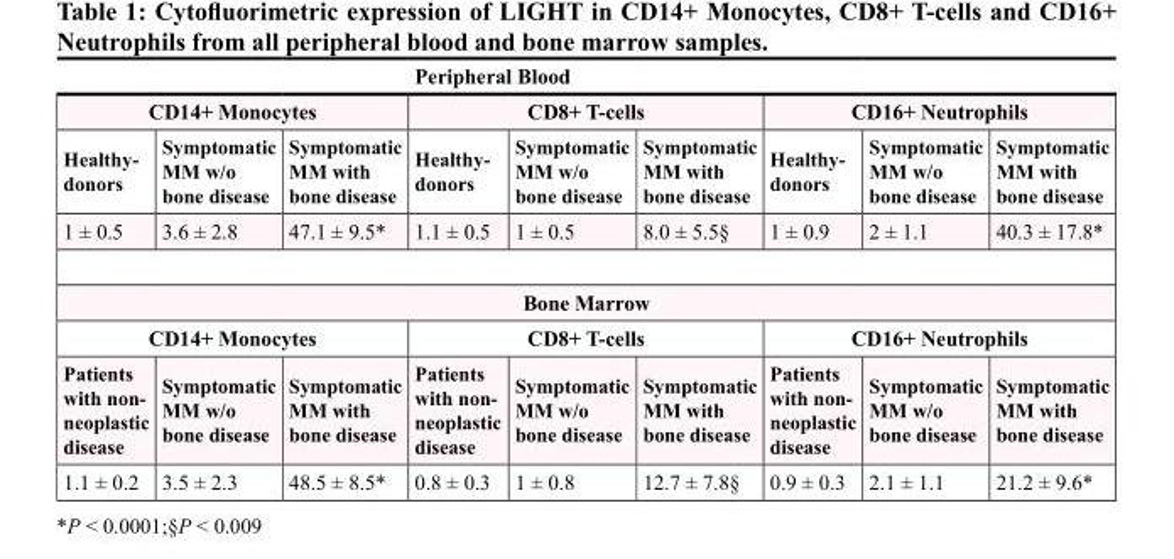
<table><thead><tr><td colspan="9">Peripheral Blood</td></tr><tr><td colspan="3">CD14+ Monocytes</td><td colspan="3">CD8+ T-cells</td><td colspan="3">CD16+ Neutrophils</td></tr><tr><td>Healthy- donors</td><td>Symptomatic MM w/o bone disease</td><td>Symptomatic MM with bone disease</td><td>Healthy- donors</td><td>Symptomatic MM w/o bone disease</td><td>Symptomatic MM with bone disease</td><td>Healthy- donors</td><td>Symptomatic MM w/o bone disease</td><td>Symptomatic MM with bone disease</td></tr></thead><tbody><tr><td>1 ± 0.5</td><td>3.6 ± 2.8</td><td>47.1 ± 9.5*</td><td>1.1 ± 0.5</td><td>1 ± 0.5</td><td>8.0 ± 5.5§</td><td>1 ± 0.9</td><td>2 ± 1.1</td><td>40.3 ± 17.8*</td></tr><tr><td colspan="9">Bone Marrow</td></tr><tr><td colspan="3">CD14+ Monocytes</td><td colspan="3">CD8+ T-cells</td><td colspan="3">CD16+ Neutrophils</td></tr><tr><td>Patients with non- neoplastic disease</td><td>Symptomatic MM w/o bone disease</td><td>Symptomatic MM with bone disease</td><td>Patients with non- neoplastic disease</td><td>Symptomatic MM w/o bone disease</td><td>Symptomatic MM with bone disease</td><td>Patients with non- neoplastic disease</td><td>Symptomatic MM w/o bone disease</td><td>Symptomatic MM with bone disease</td></tr><tr><td>1.1 ± 0.2</td><td>3.5 ± 2.3</td><td>48.5 ± 8.5*</td><td>0.8 ± 0.3</td><td>1 ± 0.8</td><td>12.7 ± 7.8§</td><td>0.9 ± 0.3</td><td>2.1 ± 1.1</td><td>21.2 ± 9.6*</td></tr></tbody></table>